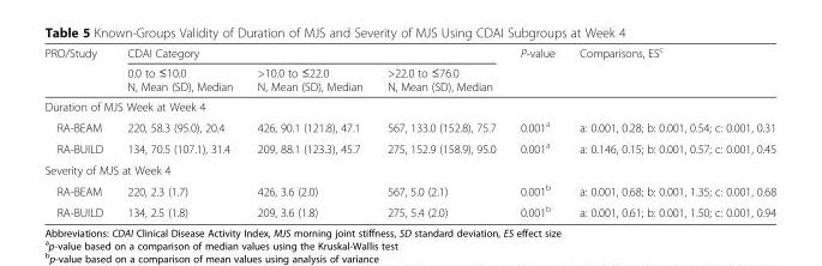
<table><thead><tr><td rowspan="2">PRO/Study</td><td colspan="3">CDAI Category</td><td rowspan="2">P-value</td><td rowspan="2">Comparisons, ES<sup>c</sup></td></tr><tr><td>0.0 to ≤10.0 N, Mean (SD), Median</td><td>&gt;10.0 to ≤22.0 N, Mean (SD), Median</td><td>&gt;22.0 to ≤76.0 N, Mean (SD), Median</td></tr></thead><tbody><tr><td colspan="6">Duration of MJS Week at Week 4</td></tr><tr><td>RA-BEAM</td><td>220, 58.3 (95.0), 20.4</td><td>426, 90.1 (121.8), 47.1</td><td>567, 133.0 (152.8), 75.7</td><td>0.001<sup>a</sup></td><td>a: 0.001, 0.28; b: 0.001, 0.54; c: 0.001, 0.31</td></tr><tr><td>RA-BUILD</td><td>134, 70.5 (107.1), 31.4</td><td>209, 88.1 (123.3), 45.7</td><td>275, 152.9 (158.9), 95.0</td><td>0.001<sup>a</sup></td><td>a: 0.146, 0.15; b: 0.001, 0.57; c: 0.001, 0.45</td></tr><tr><td colspan="6">Severity of MJS at Week 4</td></tr><tr><td>RA-BEAM</td><td>220, 2.3 (1.7)</td><td>426, 3.6 (2.0)</td><td>567, 5.0 (2.1)</td><td>0.001<sup>b</sup></td><td>a: 0.001, 0.68; b: 0.001, 1.35; c: 0.001, 0.68</td></tr><tr><td>RA-BUILD</td><td>134, 2.5 (1.8)</td><td>209, 3.6 (1.8)</td><td>275, 5.4 (2.0)</td><td>0.001<sup>b</sup></td><td>a: 0.001, 0.61; b: 0.001, 1.50; c: 0.001, 0.94</td></tr></tbody></table>